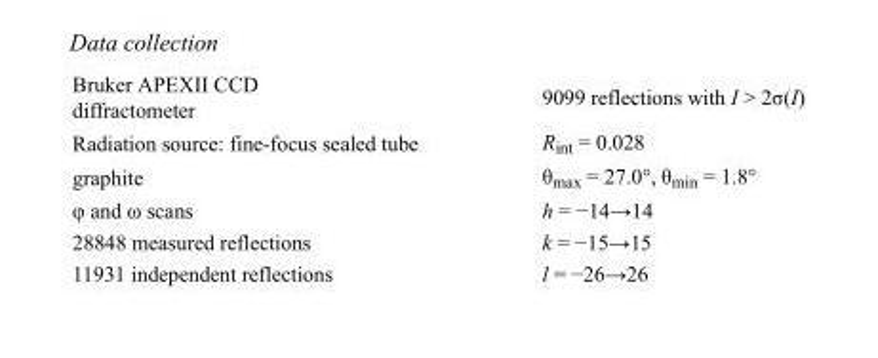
<table><tbody><tr><td>Bruker APEXII CCD diffractometer</td><td>9099 reflections with I &gt; 2σ(I)</td></tr><tr><td>Radiation source: fine-focus sealed tube</td><td>R<sub>int</sub> = 0.028</td></tr><tr><td>graphite</td><td>θ<sub>max</sub> = 27.0°, θ<sub>min</sub> = 1.8°</td></tr><tr><td>φ and ω scans</td><td>h = −14→14</td></tr><tr><td>28848 measured reflections</td><td>k = −15→15</td></tr><tr><td>11931 independent reflections</td><td>l = −26→26</td></tr></tbody></table>